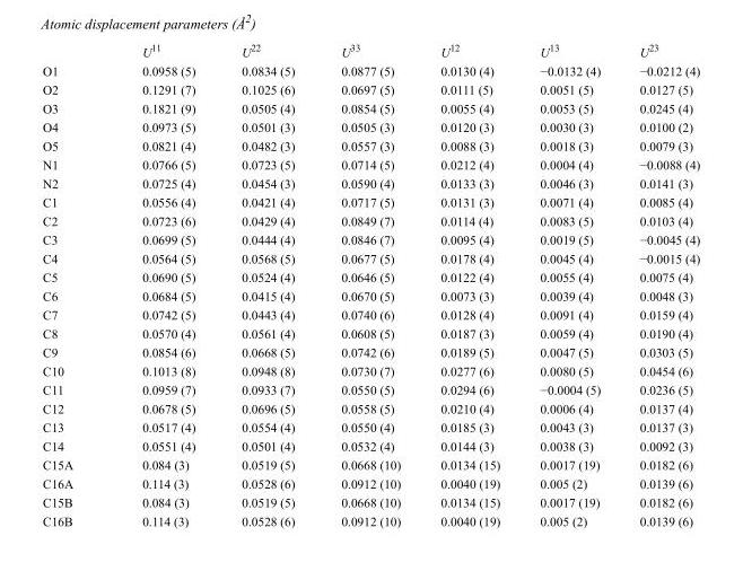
<table><thead><tr><td></td><td>U<sup>11</sup></td><td>U<sup>22</sup></td><td>U<sup>33</sup></td><td>U<sup>12</sup></td><td>U<sup>13</sup></td><td>U<sup>23</sup></td></tr></thead><tbody><tr><td>O1</td><td>0.0958 (5)</td><td>0.0834 (5)</td><td>0.0877 (5)</td><td>0.0130 (4)</td><td>−0.0132 (4)</td><td>−0.0212 (4)</td></tr><tr><td>O2</td><td>0.1291 (7)</td><td>0.1025 (6)</td><td>0.0697 (5)</td><td>0.0111 (5)</td><td>0.0051 (5)</td><td>0.0127 (5)</td></tr><tr><td>O3</td><td>0.1821 (9)</td><td>0.0505 (4)</td><td>0.0854 (5)</td><td>0.0055 (4)</td><td>0.0053 (5)</td><td>0.0245 (4)</td></tr><tr><td>O4</td><td>0.0973 (5)</td><td>0.0501 (3)</td><td>0.0505 (3)</td><td>0.0120 (3)</td><td>0.0030 (3)</td><td>0.0100 (2)</td></tr><tr><td>O5</td><td>0.0821 (4)</td><td>0.0482 (3)</td><td>0.0557 (3)</td><td>0.0088 (3)</td><td>0.0018 (3)</td><td>0.0079 (3)</td></tr><tr><td>N1</td><td>0.0766 (5)</td><td>0.0723 (5)</td><td>0.0714 (5)</td><td>0.0212 (4)</td><td>0.0004 (4)</td><td>−0.0088 (4)</td></tr><tr><td>N2</td><td>0.0725 (4)</td><td>0.0454 (3)</td><td>0.0590 (4)</td><td>0.0133 (3)</td><td>0.0046 (3)</td><td>0.0141 (3)</td></tr><tr><td>C1</td><td>0.0556 (4)</td><td>0.0421 (4)</td><td>0.0717 (5)</td><td>0.0131 (3)</td><td>0.0071 (4)</td><td>0.0085 (4)</td></tr><tr><td>C2</td><td>0.0723 (6)</td><td>0.0429 (4)</td><td>0.0849 (7)</td><td>0.0114 (4)</td><td>0.0083 (5)</td><td>0.0103 (4)</td></tr><tr><td>C3</td><td>0.0699 (5)</td><td>0.0444 (4)</td><td>0.0846 (7)</td><td>0.0095 (4)</td><td>0.0019 (5)</td><td>−0.0045 (4)</td></tr><tr><td>C4</td><td>0.0564 (5)</td><td>0.0568 (5)</td><td>0.0677 (5)</td><td>0.0178 (4)</td><td>0.0045 (4)</td><td>−0.0015 (4)</td></tr><tr><td>C5</td><td>0.0690 (5)</td><td>0.0524 (4)</td><td>0.0646 (5)</td><td>0.0122 (4)</td><td>0.0055 (4)</td><td>0.0075 (4)</td></tr><tr><td>C6</td><td>0.0684 (5)</td><td>0.0415 (4)</td><td>0.0670 (5)</td><td>0.0073 (3)</td><td>0.0039 (4)</td><td>0.0048 (3)</td></tr><tr><td>C7</td><td>0.0742 (5)</td><td>0.0443 (4)</td><td>0.0740 (6)</td><td>0.0128 (4)</td><td>0.0091 (4)</td><td>0.0159 (4)</td></tr><tr><td>C8</td><td>0.0570 (4)</td><td>0.0561 (4)</td><td>0.0608 (5)</td><td>0.0187 (3)</td><td>0.0059 (4)</td><td>0.0190 (4)</td></tr><tr><td>C9</td><td>0.0854 (6)</td><td>0.0668 (5)</td><td>0.0742 (6)</td><td>0.0189 (5)</td><td>0.0047 (5)</td><td>0.0303 (5)</td></tr><tr><td>C10</td><td>0.1013 (8)</td><td>0.0948 (8)</td><td>0.0730 (7)</td><td>0.0277 (6)</td><td>0.0080 (5)</td><td>0.0454 (6)</td></tr><tr><td>C11</td><td>0.0959 (7)</td><td>0.0933 (7)</td><td>0.0550 (5)</td><td>0.0294 (6)</td><td>−0.0004 (5)</td><td>0.0236 (5)</td></tr><tr><td>C12</td><td>0.0678 (5)</td><td>0.0696 (5)</td><td>0.0558 (5)</td><td>0.0210 (4)</td><td>0.0006 (4)</td><td>0.0137 (4)</td></tr><tr><td>C13</td><td>0.0517 (4)</td><td>0.0554 (4)</td><td>0.0550 (4)</td><td>0.0185 (3)</td><td>0.0043 (3)</td><td>0.0137 (3)</td></tr><tr><td>C14</td><td>0.0551 (4)</td><td>0.0501 (4)</td><td>0.0532 (4)</td><td>0.0144 (3)</td><td>0.0038 (3)</td><td>0.0092 (3)</td></tr><tr><td>C15A</td><td>0.084 (3)</td><td>0.0519 (5)</td><td>0.0668 (10)</td><td>0.0134 (15)</td><td>0.0017 (19)</td><td>0.0182 (6)</td></tr><tr><td>C16A</td><td>0.114 (3)</td><td>0.0528 (6)</td><td>0.0912 (10)</td><td>0.0040 (19)</td><td>0.005 (2)</td><td>0.0139 (6)</td></tr><tr><td>C15B</td><td>0.084 (3)</td><td>0.0519 (5)</td><td>0.0668 (10)</td><td>0.0134 (15)</td><td>0.0017 (19)</td><td>0.0182 (6)</td></tr><tr><td>C16B</td><td>0.114 (3)</td><td>0.0528 (6)</td><td>0.0912 (10)</td><td>0.0040 (19)</td><td>0.005 (2)</td><td>0.0139 (6)</td></tr></tbody></table>